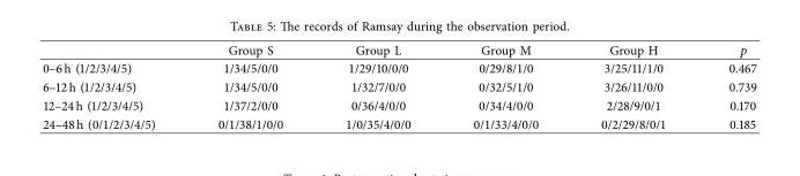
<table><thead><tr><td></td><td>Group S</td><td>Group L</td><td>Group M</td><td>Group H</td><td>p</td></tr></thead><tbody><tr><td>0–6 h (1/2/3/4/5)</td><td>1/34/5/0/0</td><td>1/29/10/0/0</td><td>0/29/8/1/0</td><td>3/25/11/1/0</td><td>0.467</td></tr><tr><td>6–12 h (1/2/3/4/5)</td><td>1/34/5/0/0</td><td>1/32/7/0/0</td><td>0/32/5/1/0</td><td>3/26/11/0/0</td><td>0.739</td></tr><tr><td>12–24 h (1/2/3/4/5)</td><td>1/37/2/0/0</td><td>0/36/4/0/0</td><td>0/34/4/0/0</td><td>2/28/9/0/1</td><td>0.170</td></tr><tr><td>24–48 h (0/1/2/3/4/5)</td><td>0/1/38/1/0/0</td><td>1/0/35/4/0/0</td><td>0/1/33/4/0/0</td><td>0/2/29/8/0/1</td><td>0.185</td></tr></tbody></table>